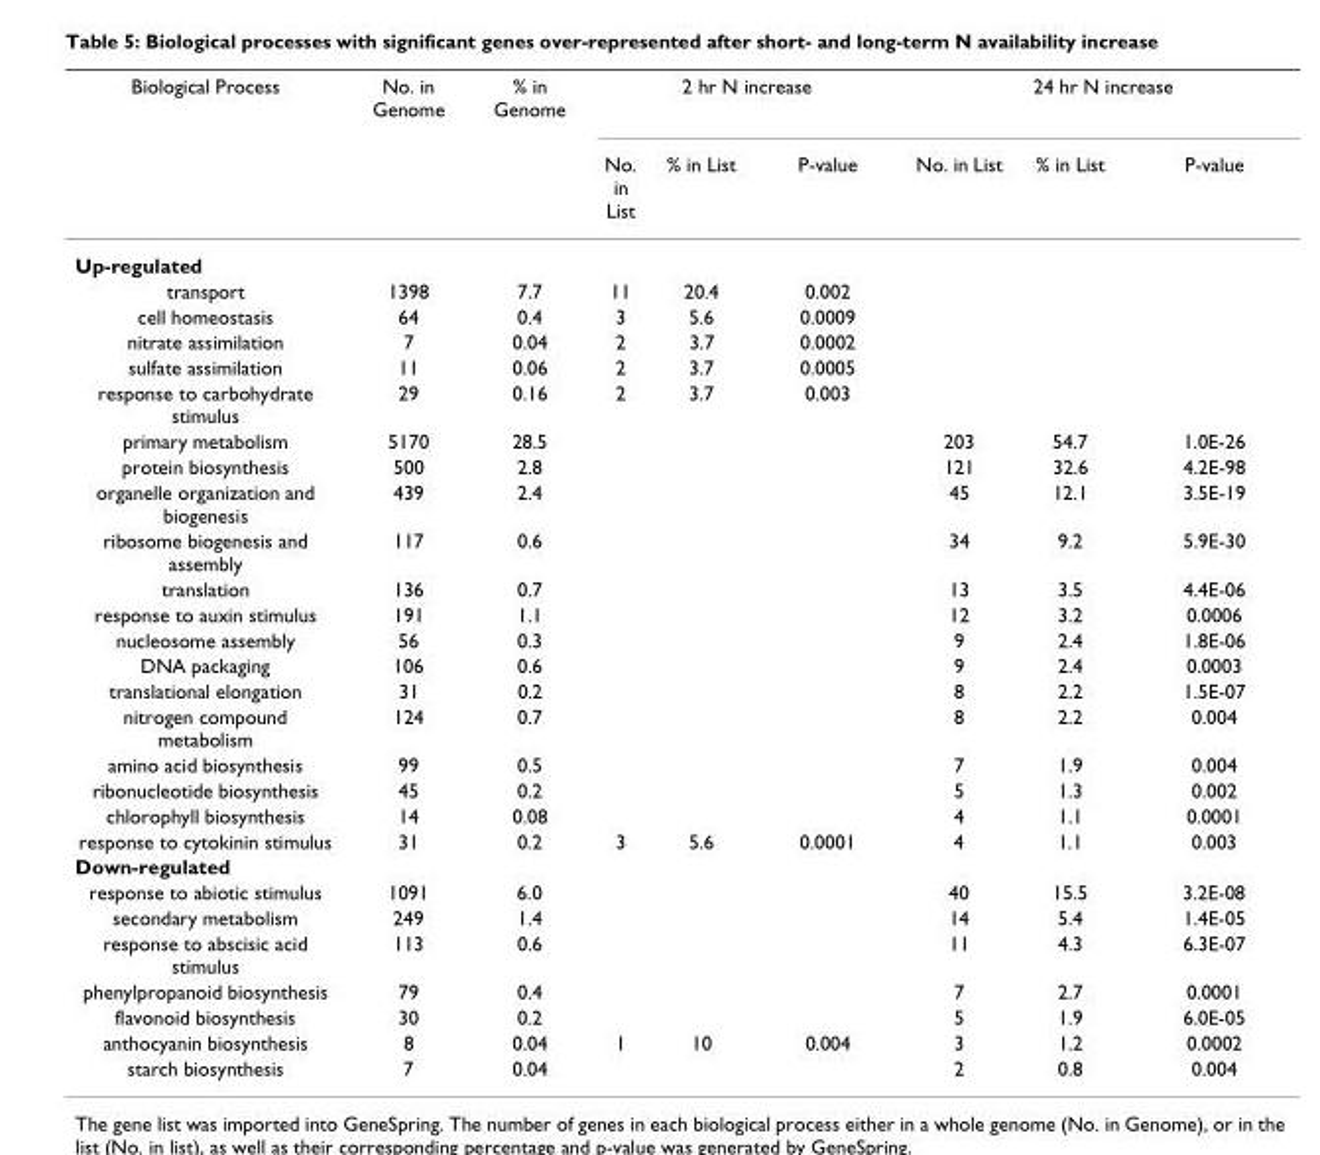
<table><thead><tr><td rowspan="2">Biological Process</td><td rowspan="2">No. in Genome</td><td rowspan="2">% in Genome</td><td colspan="3">2 hr N increase</td><td colspan="3">24 hr N increase</td></tr><tr><td>No. in List</td><td>% in List</td><td>P-value</td><td>No. in List</td><td>% in List</td><td>P-value</td></tr></thead><tbody><tr><td colspan="9">Up-regulated</td></tr><tr><td>transport</td><td>1398</td><td>7.7</td><td>11</td><td>20.4</td><td>0.002</td><td></td><td></td><td></td></tr><tr><td>cell homeostasis</td><td>64</td><td>0.4</td><td>3</td><td>5.6</td><td>0.0009</td><td></td><td></td><td></td></tr><tr><td>nitrate assimilation</td><td>7</td><td>0.04</td><td>2</td><td>3.7</td><td>0.0002</td><td></td><td></td><td></td></tr><tr><td>sulfate assimilation</td><td>11</td><td>0.06</td><td>2</td><td>3.7</td><td>0.0005</td><td></td><td></td><td></td></tr><tr><td>response to carbohydrate stimulus</td><td>29</td><td>0.16</td><td>2</td><td>3.7</td><td>0.003</td><td></td><td></td><td></td></tr><tr><td>primary metabolism</td><td>5170</td><td>28.5</td><td></td><td></td><td></td><td>203</td><td>54.7</td><td>1.0E-26</td></tr><tr><td>protein biosynthesis</td><td>500</td><td>2.8</td><td></td><td></td><td></td><td>121</td><td>32.6</td><td>4.2E-98</td></tr><tr><td>organelle organization and biogenesis</td><td>439</td><td>2.4</td><td></td><td></td><td></td><td>45</td><td>12.1</td><td>3.5E-19</td></tr><tr><td>ribosome biogenesis and assembly</td><td>117</td><td>0.6</td><td></td><td></td><td></td><td>34</td><td>9.2</td><td>5.9E-30</td></tr><tr><td>translation</td><td>136</td><td>0.7</td><td></td><td></td><td></td><td>13</td><td>3.5</td><td>4.4E-06</td></tr><tr><td>response to auxin stimulus</td><td>191</td><td>1.1</td><td></td><td></td><td></td><td>12</td><td>3.2</td><td>0.0006</td></tr><tr><td>nucleosome assembly</td><td>56</td><td>0.3</td><td></td><td></td><td></td><td>9</td><td>2.4</td><td>1.8E-06</td></tr><tr><td>DNA packaging</td><td>106</td><td>0.6</td><td></td><td></td><td></td><td>9</td><td>2.4</td><td>0.0003</td></tr><tr><td>translational elongation</td><td>31</td><td>0.2</td><td></td><td></td><td></td><td>8</td><td>2.2</td><td>1.5E-07</td></tr><tr><td>nitrogen compound metabolism</td><td>124</td><td>0.7</td><td></td><td></td><td></td><td>8</td><td>2.2</td><td>0.004</td></tr><tr><td>amino acid biosynthesis</td><td>99</td><td>0.5</td><td></td><td></td><td></td><td>7</td><td>1.9</td><td>0.004</td></tr><tr><td>ribonucleotide biosynthesis</td><td>45</td><td>0.2</td><td></td><td></td><td></td><td>5</td><td>1.3</td><td>0.002</td></tr><tr><td>chlorophyll biosynthesis</td><td>14</td><td>0.08</td><td></td><td></td><td></td><td>4</td><td>1.1</td><td>0.0001</td></tr><tr><td>response to cytokinin stimulus</td><td>31</td><td>0.2</td><td>3</td><td>5.6</td><td>0.0001</td><td>4</td><td>1.1</td><td>0.003</td></tr><tr><td colspan="9">Down-regulated</td></tr><tr><td>response to abiotic stimulus</td><td>1091</td><td>6.0</td><td></td><td></td><td></td><td>40</td><td>15.5</td><td>3.2E-08</td></tr><tr><td>secondary metabolism</td><td>249</td><td>1.4</td><td></td><td></td><td></td><td>14</td><td>5.4</td><td>1.4E-05</td></tr><tr><td>response to abscisic acid stimulus</td><td>113</td><td>0.6</td><td></td><td></td><td></td><td>11</td><td>4.3</td><td>6.3E-07</td></tr><tr><td>phenylpropanoid biosynthesis</td><td>79</td><td>0.4</td><td></td><td></td><td></td><td>7</td><td>2.7</td><td>0.0001</td></tr><tr><td>flavonoid biosynthesis</td><td>30</td><td>0.2</td><td></td><td></td><td></td><td>5</td><td>1.9</td><td>6.0E-05</td></tr><tr><td>anthocyanin biosynthesis</td><td>8</td><td>0.04</td><td>1</td><td>10</td><td>0.004</td><td>3</td><td>1.2</td><td>0.0002</td></tr><tr><td>starch biosynthesis</td><td>7</td><td>0.04</td><td></td><td></td><td></td><td>2</td><td>0.8</td><td>0.004</td></tr></tbody></table>